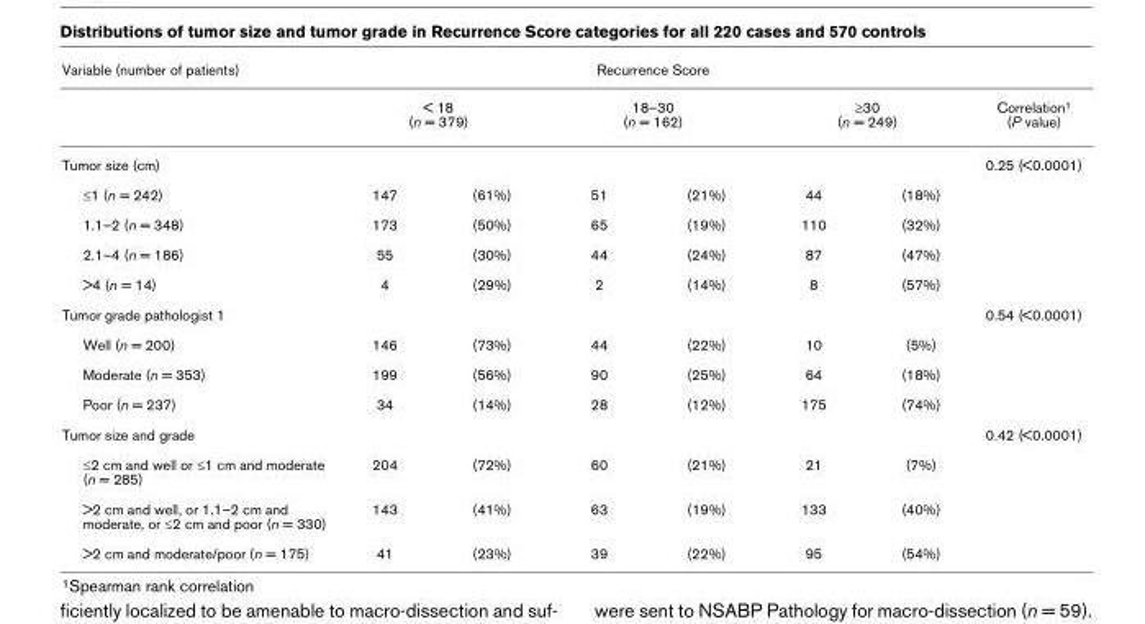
<table><thead><tr><td rowspan="3">Variable (number of patients) Tumor size (cm)</td><td colspan="6">Recurrence Score</td><td rowspan="3">Correlation1 (P value) 0.25 (&lt;0.0001)</td></tr><tr><td colspan="2">&lt; 18 (n = 379)</td><td colspan="2">18–30 (n = 162)</td><td colspan="2">≥30 (n = 249)</td></tr><tr><td></td><td></td><td></td><td></td><td></td><td></td></tr></thead><tbody><tr><td>≤1 (n = 242)</td><td>147</td><td>(61%)</td><td>51</td><td>(21%)</td><td>44</td><td>(18%)</td><td></td></tr><tr><td>1.1–2 (n = 348)</td><td>173</td><td>(50%)</td><td>65</td><td>(19%)</td><td>110</td><td>(32%)</td><td></td></tr><tr><td>2.1–4 (n = 186)</td><td>55</td><td>(30%)</td><td>44</td><td>(24%)</td><td>87</td><td>(47%)</td><td></td></tr><tr><td>&gt;4 (n = 14)</td><td>4</td><td>(29%)</td><td>2</td><td>(14%)</td><td>8</td><td>(57%)</td><td></td></tr><tr><td>Tumor grade pathologist 1</td><td></td><td></td><td></td><td></td><td></td><td></td><td>0.54 (&lt;0.0001)</td></tr><tr><td>Well (n = 200)</td><td>146</td><td>(73%)</td><td>44</td><td>(22%)</td><td>10</td><td>(5%)</td><td></td></tr><tr><td>Moderate (n = 353)</td><td>199</td><td>(56%)</td><td>90</td><td>(25%)</td><td>64</td><td>(18%)</td><td></td></tr><tr><td>Poor (n = 237)</td><td>34</td><td>(14%)</td><td>28</td><td>(12%)</td><td>175</td><td>(74%)</td><td></td></tr><tr><td>Tumor size and grade</td><td></td><td></td><td></td><td></td><td></td><td></td><td>0.42 (&lt;0.0001)</td></tr><tr><td>≤2 cm and well or ≤1 cm and moderate (n = 285)</td><td>204</td><td>(72%)</td><td>60</td><td>(21%)</td><td>21</td><td>(7%)</td><td></td></tr><tr><td>&gt;2 cm and well, or 1.1–2 cm and moderate, or ≤2 cm and poor (n = 330)</td><td>143</td><td>(41%)</td><td>63</td><td>(19%)</td><td>133</td><td>(40%)</td><td></td></tr><tr><td>&gt;2 cm and moderate/poor (n = 175)</td><td>41</td><td>(23%)</td><td>39</td><td>(22%)</td><td>95</td><td>(54%)</td><td></td></tr></tbody></table>